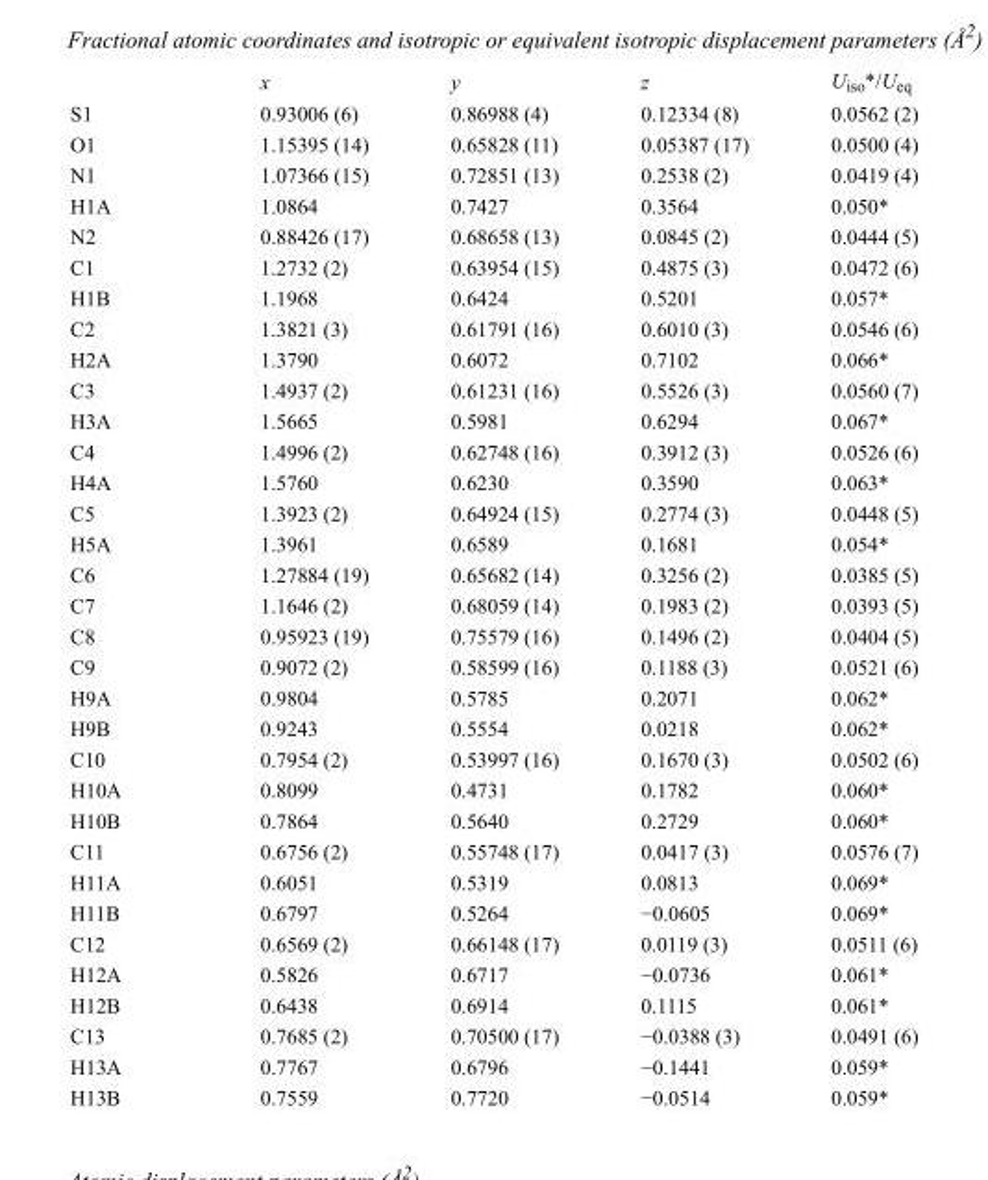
<table><thead><tr><td></td><td>x</td><td>y</td><td>z</td><td>U<sub>iso</sub>*/U<sub>eq</sub></td></tr></thead><tbody><tr><td>S1</td><td>0.93006 (6)</td><td>0.86988 (4)</td><td>0.12334 (8)</td><td>0.0562 (2)</td></tr><tr><td>O1</td><td>1.15395 (14)</td><td>0.65828 (11)</td><td>0.05387 (17)</td><td>0.0500 (4)</td></tr><tr><td>N1</td><td>1.07366 (15)</td><td>0.72851 (13)</td><td>0.2538 (2)</td><td>0.0419 (4)</td></tr><tr><td>H1A</td><td>1.0864</td><td>0.7427</td><td>0.3564</td><td>0.050*</td></tr><tr><td>N2</td><td>0.88426 (17)</td><td>0.68658 (13)</td><td>0.0845 (2)</td><td>0.0444 (5)</td></tr><tr><td>C1</td><td>1.2732 (2)</td><td>0.63954 (15)</td><td>0.4875 (3)</td><td>0.0472 (6)</td></tr><tr><td>H1B</td><td>1.1968</td><td>0.6424</td><td>0.5201</td><td>0.057*</td></tr><tr><td>C2</td><td>1.3821 (3)</td><td>0.61791 (16)</td><td>0.6010 (3)</td><td>0.0546 (6)</td></tr><tr><td>H2A</td><td>1.3790</td><td>0.6072</td><td>0.7102</td><td>0.066*</td></tr><tr><td>C3</td><td>1.4937 (2)</td><td>0.61231 (16)</td><td>0.5526 (3)</td><td>0.0560 (7)</td></tr><tr><td>H3A</td><td>1.5665</td><td>0.5981</td><td>0.6294</td><td>0.067*</td></tr><tr><td>C4</td><td>1.4996 (2)</td><td>0.62748 (16)</td><td>0.3912 (3)</td><td>0.0526 (6)</td></tr><tr><td>H4A</td><td>1.5760</td><td>0.6230</td><td>0.3590</td><td>0.063*</td></tr><tr><td>C5</td><td>1.3923 (2)</td><td>0.64924 (15)</td><td>0.2774 (3)</td><td>0.0448 (5)</td></tr><tr><td>H5A</td><td>1.3961</td><td>0.6589</td><td>0.1681</td><td>0.054*</td></tr><tr><td>C6</td><td>1.27884 (19)</td><td>0.65682 (14)</td><td>0.3256 (2)</td><td>0.0385 (5)</td></tr><tr><td>C7</td><td>1.1646 (2)</td><td>0.68059 (14)</td><td>0.1983 (2)</td><td>0.0393 (5)</td></tr><tr><td>C8</td><td>0.95923 (19)</td><td>0.75579 (16)</td><td>0.1496 (2)</td><td>0.0404 (5)</td></tr><tr><td>C9</td><td>0.9072 (2)</td><td>0.58599 (16)</td><td>0.1188 (3)</td><td>0.0521 (6)</td></tr><tr><td>H9A</td><td>0.9804</td><td>0.5785</td><td>0.2071</td><td>0.062*</td></tr><tr><td>H9B</td><td>0.9243</td><td>0.5554</td><td>0.0218</td><td>0.062*</td></tr><tr><td>C10</td><td>0.7954 (2)</td><td>0.53997 (16)</td><td>0.1670 (3)</td><td>0.0502 (6)</td></tr><tr><td>H10A</td><td>0.8099</td><td>0.4731</td><td>0.1782</td><td>0.060*</td></tr><tr><td>H10B</td><td>0.7864</td><td>0.5640</td><td>0.2729</td><td>0.060*</td></tr><tr><td>C11</td><td>0.6756 (2)</td><td>0.55748 (17)</td><td>0.0417 (3)</td><td>0.0576 (7)</td></tr><tr><td>H11A</td><td>0.6051</td><td>0.5319</td><td>0.0813</td><td>0.069*</td></tr><tr><td>H11B</td><td>0.6797</td><td>0.5264</td><td>−0.0605</td><td>0.069*</td></tr><tr><td>C12</td><td>0.6569 (2)</td><td>0.66148 (17)</td><td>0.0119 (3)</td><td>0.0511 (6)</td></tr><tr><td>H12A</td><td>0.5826</td><td>0.6717</td><td>−0.0736</td><td>0.061*</td></tr><tr><td>H12B</td><td>0.6438</td><td>0.6914</td><td>0.1115</td><td>0.061*</td></tr><tr><td>C13</td><td>0.7685 (2)</td><td>0.70500 (17)</td><td>−0.0388 (3)</td><td>0.0491 (6)</td></tr><tr><td>H13A</td><td>0.7767</td><td>0.6796</td><td>−0.1441</td><td>0.059*</td></tr><tr><td>H13B</td><td>0.7559</td><td>0.7720</td><td>−0.0514</td><td>0.059*</td></tr></tbody></table>